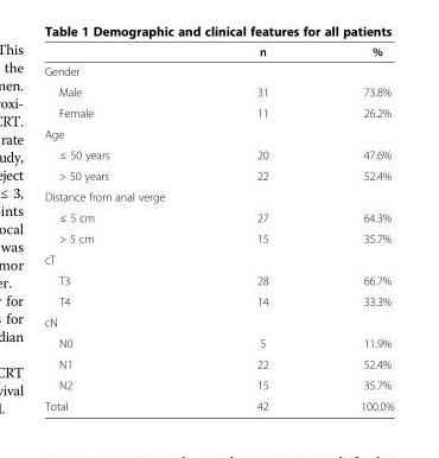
<table><thead><tr><td></td><td>n</td><td>%</td></tr></thead><tbody><tr><td colspan="3">Gender</td></tr><tr><td>Male</td><td>31</td><td>73.8%</td></tr><tr><td>Female</td><td>11</td><td>26.2%</td></tr><tr><td colspan="3">Age</td></tr><tr><td>≤ 50 years</td><td>20</td><td>47.6%</td></tr><tr><td>&gt; 50 years</td><td>22</td><td>52.4%</td></tr><tr><td colspan="3">Distance from anal verge</td></tr><tr><td>≤ 5 cm</td><td>27</td><td>64.3%</td></tr><tr><td>&gt; 5 cm</td><td>15</td><td>35.7%</td></tr><tr><td colspan="3">cT</td></tr><tr><td>T3</td><td>28</td><td>66.7%</td></tr><tr><td>T4</td><td>14</td><td>33.3%</td></tr><tr><td colspan="3">cN</td></tr><tr><td>N0</td><td>5</td><td>11.9%</td></tr><tr><td>N1</td><td>22</td><td>52.4%</td></tr><tr><td>N2</td><td>15</td><td>35.7%</td></tr><tr><td>Total</td><td>42</td><td>100.0%</td></tr></tbody></table>